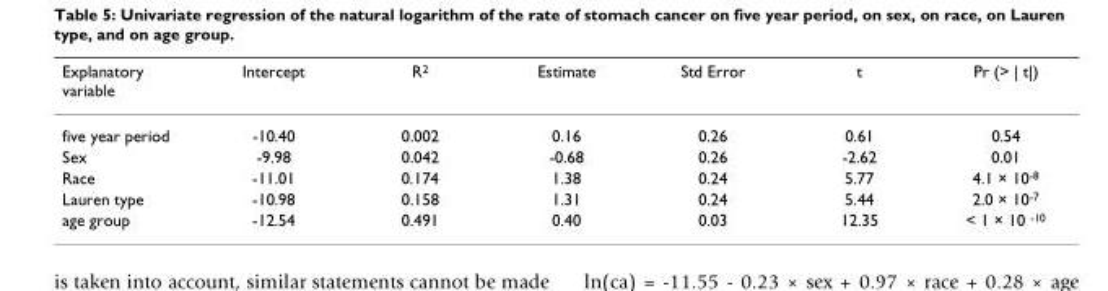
<table><thead><tr><td>Explanatory variable</td><td>Intercept</td><td>R2</td><td>Estimate</td><td>Std Error</td><td>t</td><td>Pr (&gt; | t|)</td></tr></thead><tbody><tr><td>five year period</td><td>-10.40</td><td>0.002</td><td>0.16</td><td>0.26</td><td>0.61</td><td>0.54</td></tr><tr><td>Sex</td><td>-9.98</td><td>0.042</td><td>-0.68</td><td>0.26</td><td>-2.62</td><td>0.01</td></tr><tr><td>Race</td><td>-11.01</td><td>0.174</td><td>1.38</td><td>0.24</td><td>5.77</td><td>4.1 × 10-8</td></tr><tr><td>Lauren type</td><td>-10.98</td><td>0.158</td><td>1.31</td><td>0.24</td><td>5.44</td><td>2.0 × 10-7</td></tr><tr><td>age group</td><td>-12.54</td><td>0.491</td><td>0.40</td><td>0.03</td><td>12.35</td><td>&lt; 1 × 10 -10</td></tr></tbody></table>